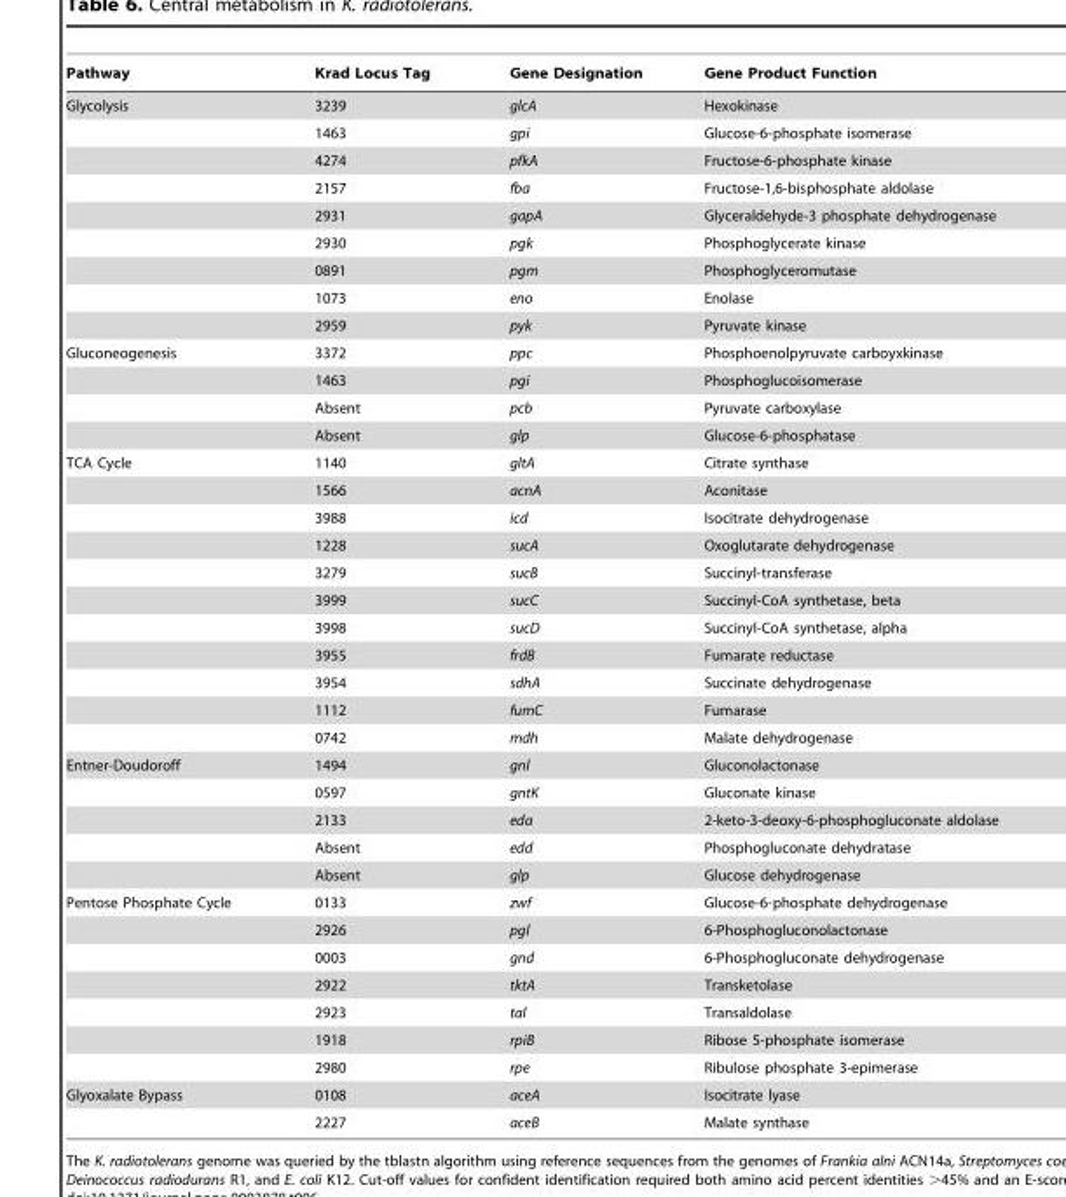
<table><thead><tr><td>Pathway</td><td>Krad Locus Tag</td><td>Gene Designation</td><td>Gene Product Function</td></tr></thead><tbody><tr><td rowspan="9">Glycolysis</td><td>3239</td><td>glcA</td><td>Hexokinase</td></tr><tr><td>1463</td><td>gpi</td><td>Glucose-6-phosphate isomerase</td></tr><tr><td>4274</td><td>pfkA</td><td>Fructose-6-phosphate kinase</td></tr><tr><td>2157</td><td>fba</td><td>Fructose-1,6-bisphosphate aldolase</td></tr><tr><td>2931</td><td>gapA</td><td>Glyceraldehyde-3 phosphate dehydrogenase</td></tr><tr><td>2930</td><td>pgk</td><td>Phosphoglycerate kinase</td></tr><tr><td>0891</td><td>pgm</td><td>Phosphoglyceromutase</td></tr><tr><td>1073</td><td>eno</td><td>Enolase</td></tr><tr><td>2959</td><td>pyk</td><td>Pyruvate kinase</td></tr><tr><td rowspan="4">Gluconeogenesis</td><td>3372</td><td>ppc</td><td>Phosphoenolpyruvate carboyxkinase</td></tr><tr><td>1463</td><td>pgi</td><td>Phosphoglucoisomerase</td></tr><tr><td>Absent</td><td>pcb</td><td>Pyruvate carboxylase</td></tr><tr><td>Absent</td><td>glp</td><td>Glucose-6-phosphatase</td></tr><tr><td rowspan="11">TCA Cycle</td><td>1140</td><td>gltA</td><td>Citrate synthase</td></tr><tr><td>1566</td><td>acnA</td><td>Aconitase</td></tr><tr><td>3988</td><td>icd</td><td>Isocitrate dehydrogenase</td></tr><tr><td>1228</td><td>sucA</td><td>Oxoglutarate dehydrogenase</td></tr><tr><td>3279</td><td>sucB</td><td>Succinyl-transferase</td></tr><tr><td>3999</td><td>sucC</td><td>Succinyl-CoA synthetase, beta</td></tr><tr><td>3998</td><td>sucD</td><td>Succinyl-CoA synthetase, alpha</td></tr><tr><td>3955</td><td>frdB</td><td>Fumarate reductase</td></tr><tr><td>3954</td><td>sdhA</td><td>Succinate dehydrogenase</td></tr><tr><td>1112</td><td>fumC</td><td>Fumarase</td></tr><tr><td>0742</td><td>mdh</td><td>Malate dehydrogenase</td></tr><tr><td rowspan="5">Entner-Doudoroff</td><td>1494</td><td>gnl</td><td>Gluconolactonase</td></tr><tr><td>0597</td><td>gntK</td><td>Gluconate kinase</td></tr><tr><td>2133</td><td>eda</td><td>2-keto-3-deoxy-6-phosphogluconate aldolase</td></tr><tr><td>Absent</td><td>edd</td><td>Phosphogluconate dehydratase</td></tr><tr><td>Absent</td><td>glp</td><td>Glucose dehydrogenase</td></tr><tr><td rowspan="7">Pentose Phosphate Cycle</td><td>0133</td><td>zwf</td><td>Glucose-6-phosphate dehydrogenase</td></tr><tr><td>2926</td><td>pgl</td><td>6-Phosphogluconolactonase</td></tr><tr><td>0003</td><td>gnd</td><td>6-Phosphogluconate dehydrogenase</td></tr><tr><td>2922</td><td>tktA</td><td>Transketolase</td></tr><tr><td>2923</td><td>tal</td><td>Transaldolase</td></tr><tr><td>1918</td><td>rpiB</td><td>Ribose 5-phosphate isomerase</td></tr><tr><td>2980</td><td>rpe</td><td>Ribulose phosphate 3-epimerase</td></tr><tr><td rowspan="2">Glyoxalate Bypass</td><td>0108</td><td>aceA</td><td>Isocitrate lyase</td></tr><tr><td>2227</td><td>aceB</td><td>Malate synthase</td></tr></tbody></table>